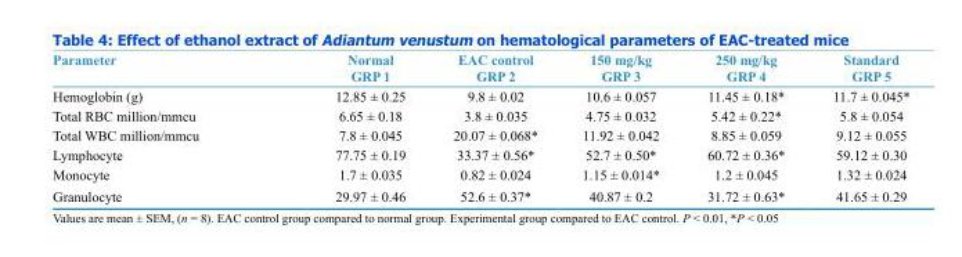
<table><thead><tr><td>Parameter</td><td>Normal GRP 1</td><td>EAC control GRP 2</td><td>150 mg/kg GRP 3</td><td>250 mg/kg GRP 4</td><td>Standard GRP 5</td></tr></thead><tbody><tr><td>Hemoglobin (g)</td><td>12.85 ± 0.25</td><td>9.8 ± 0.02</td><td>10.6 ± 0.057</td><td>11.45 ± 0.18*</td><td>11.7 ± 0.045*</td></tr><tr><td>Total RBC million/mmcu</td><td>6.65 ± 0.18</td><td>3.8 ± 0.035</td><td>4.75 ± 0.032</td><td>5.42 ± 0.22*</td><td>5.8 ± 0.054</td></tr><tr><td>Total WBC million/mmcu</td><td>7.8 ± 0.045</td><td>20.07 ± 0.068*</td><td>11.92 ± 0.042</td><td>8.85 ± 0.059</td><td>9.12 ± 0.055</td></tr><tr><td>Lymphocyte</td><td>77.75 ± 0.19</td><td>33.37 ± 0.56*</td><td>52.7 ± 0.50*</td><td>60.72 ± 0.36*</td><td>59.12 ± 0.30</td></tr><tr><td>Monocyte</td><td>1.7 ± 0.035</td><td>0.82 ± 0.024</td><td>1.15 ± 0.014*</td><td>1.2 ± 0.045</td><td>1.32 ± 0.024</td></tr><tr><td>Granulocyte</td><td>29.97 ± 0.46</td><td>52.6 ± 0.37*</td><td>40.87 ± 0.2</td><td>31.72 ± 0.63*</td><td>41.65 ± 0.29</td></tr></tbody></table>